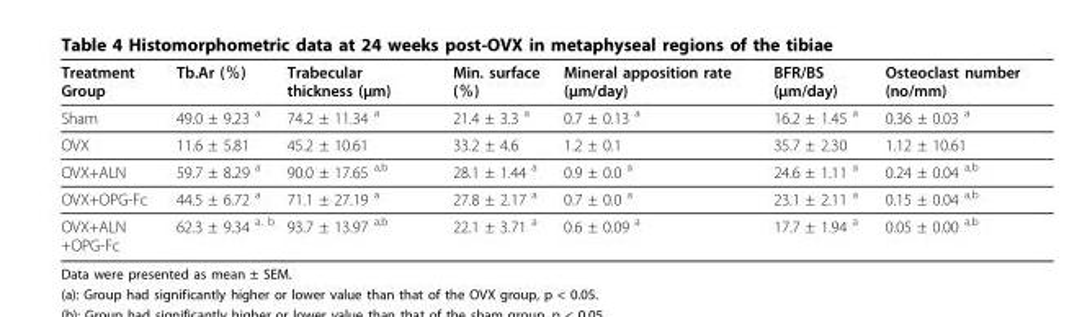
<table><thead><tr><td>Treatment Group</td><td>Tb.Ar (％)</td><td>Trabecular thickness (μm)</td><td>Min. surface (％)</td><td>Mineral apposition rate (μm/day)</td><td>BFR/BS (μm/day)</td><td>Osteoclast number (no/mm)</td></tr></thead><tbody><tr><td>Sham</td><td>49.0 ± 9.23 <sup>a</sup></td><td>74.2 ± 11.34 <sup>a</sup></td><td>21.4 ± 3.3 <sup>a</sup></td><td>0.7 ± 0.13 <sup>a</sup></td><td>16.2 ± 1.45 <sup>a</sup></td><td>0.36 ± 0.03 <sup>a</sup></td></tr><tr><td>OVX</td><td>11.6 ± 5.81</td><td>45.2 ± 10.61</td><td>33.2 ± 4.6</td><td>1.2 ± 0.1</td><td>35.7 ± 2.30</td><td>1.12 ± 10.61</td></tr><tr><td>OVX+ALN</td><td>59.7 ± 8.29 <sup>a</sup></td><td>90.0 ± 17.65 <sup>a,b</sup></td><td>28.1 ± 1.44 <sup>a</sup></td><td>0.9 ± 0.0 <sup>a</sup></td><td>24.6 ± 1.11 <sup>a</sup></td><td>0.24 ± 0.04 <sup>a,b</sup></td></tr><tr><td>OVX+OPG-Fc</td><td>44.5 ± 6.72 <sup>a</sup></td><td>71.1 ± 27.19 <sup>a</sup></td><td>27.8 ± 2.17 <sup>a</sup></td><td>0.7 ± 0.0 <sup>a</sup></td><td>23.1 ± 2.11 <sup>a</sup></td><td>0.15 ± 0.04 <sup>a,b</sup></td></tr><tr><td>OVX+ALN +OPG-Fc</td><td>62.3 ± 9.34 <sup>a, b</sup></td><td>93.7 ± 13.97 <sup>a,b</sup></td><td>22.1 ± 3.71 <sup>a</sup></td><td>0.6 ± 0.09 <sup>a</sup></td><td>17.7 ± 1.94 <sup>a</sup></td><td>0.05 ± 0.00 <sup>a,b</sup></td></tr></tbody></table>